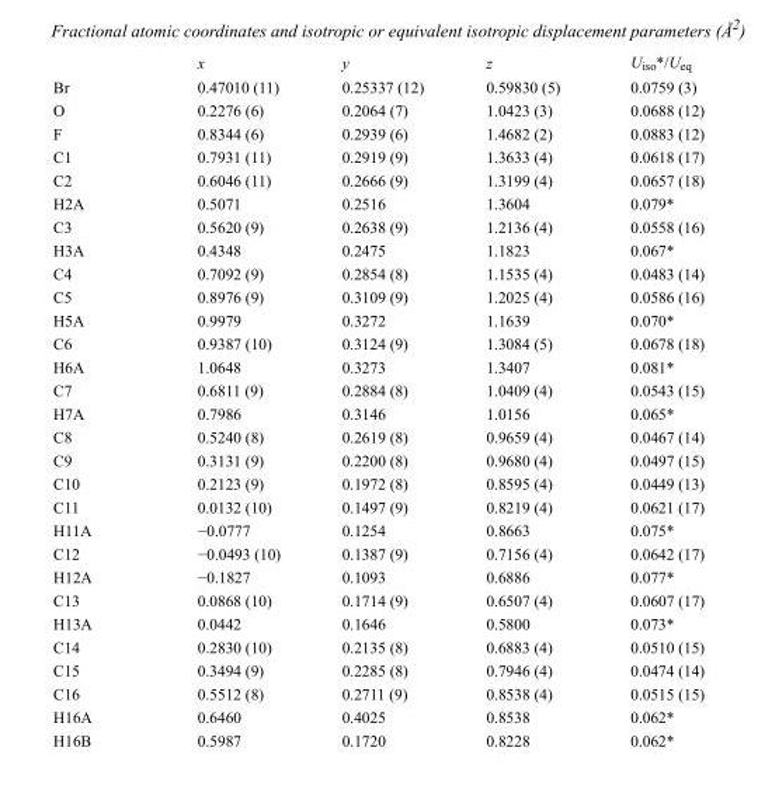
<table><thead><tr><td></td><td>x</td><td>y</td><td>z</td><td>U<sub>iso</sub>*/U<sub>eq</sub></td></tr></thead><tbody><tr><td>Br</td><td>0.47010 (11)</td><td>0.25337 (12)</td><td>0.59830 (5)</td><td>0.0759 (3)</td></tr><tr><td>O</td><td>0.2276 (6)</td><td>0.2064 (7)</td><td>1.0423 (3)</td><td>0.0688 (12)</td></tr><tr><td>F</td><td>0.8344 (6)</td><td>0.2939 (6)</td><td>1.4682 (2)</td><td>0.0883 (12)</td></tr><tr><td>C1</td><td>0.7931 (11)</td><td>0.2919 (9)</td><td>1.3633 (4)</td><td>0.0618 (17)</td></tr><tr><td>C2</td><td>0.6046 (11)</td><td>0.2666 (9)</td><td>1.3199 (4)</td><td>0.0657 (18)</td></tr><tr><td>H2A</td><td>0.5071</td><td>0.2516</td><td>1.3604</td><td>0.079*</td></tr><tr><td>C3</td><td>0.5620 (9)</td><td>0.2638 (9)</td><td>1.2136 (4)</td><td>0.0558 (16)</td></tr><tr><td>H3A</td><td>0.4348</td><td>0.2475</td><td>1.1823</td><td>0.067*</td></tr><tr><td>C4</td><td>0.7092 (9)</td><td>0.2854 (8)</td><td>1.1535 (4)</td><td>0.0483 (14)</td></tr><tr><td>C5</td><td>0.8976 (9)</td><td>0.3109 (9)</td><td>1.2025 (4)</td><td>0.0586 (16)</td></tr><tr><td>H5A</td><td>0.9979</td><td>0.3272</td><td>1.1639</td><td>0.070*</td></tr><tr><td>C6</td><td>0.9387 (10)</td><td>0.3124 (9)</td><td>1.3084 (5)</td><td>0.0678 (18)</td></tr><tr><td>H6A</td><td>1.0648</td><td>0.3273</td><td>1.3407</td><td>0.081*</td></tr><tr><td>C7</td><td>0.6811 (9)</td><td>0.2884 (8)</td><td>1.0409 (4)</td><td>0.0543 (15)</td></tr><tr><td>H7A</td><td>0.7986</td><td>0.3146</td><td>1.0156</td><td>0.065*</td></tr><tr><td>C8</td><td>0.5240 (8)</td><td>0.2619 (8)</td><td>0.9659 (4)</td><td>0.0467 (14)</td></tr><tr><td>C9</td><td>0.3131 (9)</td><td>0.2200 (8)</td><td>0.9680 (4)</td><td>0.0497 (15)</td></tr><tr><td>C10</td><td>0.2123 (9)</td><td>0.1972 (8)</td><td>0.8595 (4)</td><td>0.0449 (13)</td></tr><tr><td>C11</td><td>0.0132 (10)</td><td>0.1497 (9)</td><td>0.8219 (4)</td><td>0.0621 (17)</td></tr><tr><td>H11A</td><td>−0.0777</td><td>0.1254</td><td>0.8663</td><td>0.075*</td></tr><tr><td>C12</td><td>−0.0493 (10)</td><td>0.1387 (9)</td><td>0.7156 (4)</td><td>0.0642 (17)</td></tr><tr><td>H12A</td><td>−0.1827</td><td>0.1093</td><td>0.6886</td><td>0.077*</td></tr><tr><td>C13</td><td>0.0868 (10)</td><td>0.1714 (9)</td><td>0.6507 (4)</td><td>0.0607 (17)</td></tr><tr><td>H13A</td><td>0.0442</td><td>0.1646</td><td>0.5800</td><td>0.073*</td></tr><tr><td>C14</td><td>0.2830 (10)</td><td>0.2135 (8)</td><td>0.6883 (4)</td><td>0.0510 (15)</td></tr><tr><td>C15</td><td>0.3494 (9)</td><td>0.2285 (8)</td><td>0.7946 (4)</td><td>0.0474 (14)</td></tr><tr><td>C16</td><td>0.5512 (8)</td><td>0.2711 (9)</td><td>0.8538 (4)</td><td>0.0515 (15)</td></tr><tr><td>H16A</td><td>0.6460</td><td>0.4025</td><td>0.8538</td><td>0.062*</td></tr><tr><td>H16B</td><td>0.5987</td><td>0.1720</td><td>0.8228</td><td>0.062*</td></tr></tbody></table>